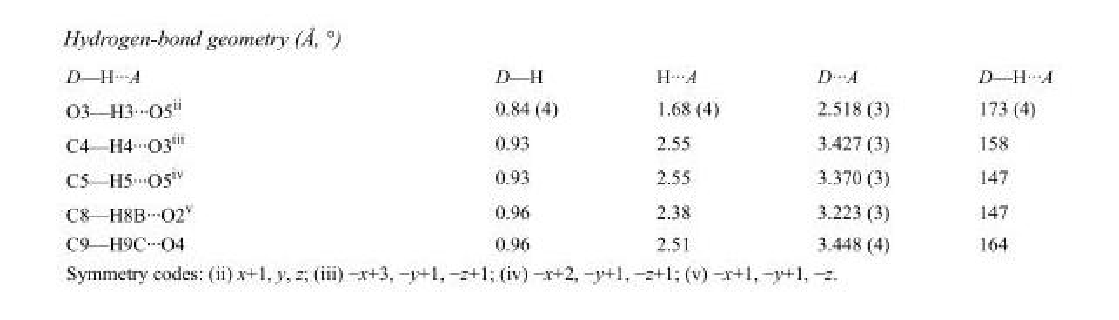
<table><tbody><tr><td>D—H···A</td><td>D—H</td><td>H···A</td><td>D···A</td><td>D—H···A</td></tr><tr><td>O3—H3···O5<sup>ii</sup></td><td>0.84 (4)</td><td>1.68 (4)</td><td>2.518 (3)</td><td>173 (4)</td></tr><tr><td>C4—H4···O3<sup>iii</sup></td><td>0.93</td><td>2.55</td><td>3.427 (3)</td><td>158</td></tr><tr><td>C5—H5···O5<sup>iv</sup></td><td>0.93</td><td>2.55</td><td>3.370 (3)</td><td>147</td></tr><tr><td>C8—H8B···O2<sup>v</sup></td><td>0.96</td><td>2.38</td><td>3.223 (3)</td><td>147</td></tr><tr><td>C9—H9C···O4</td><td>0.96</td><td>2.51</td><td>3.448 (4)</td><td>164</td></tr></tbody></table>